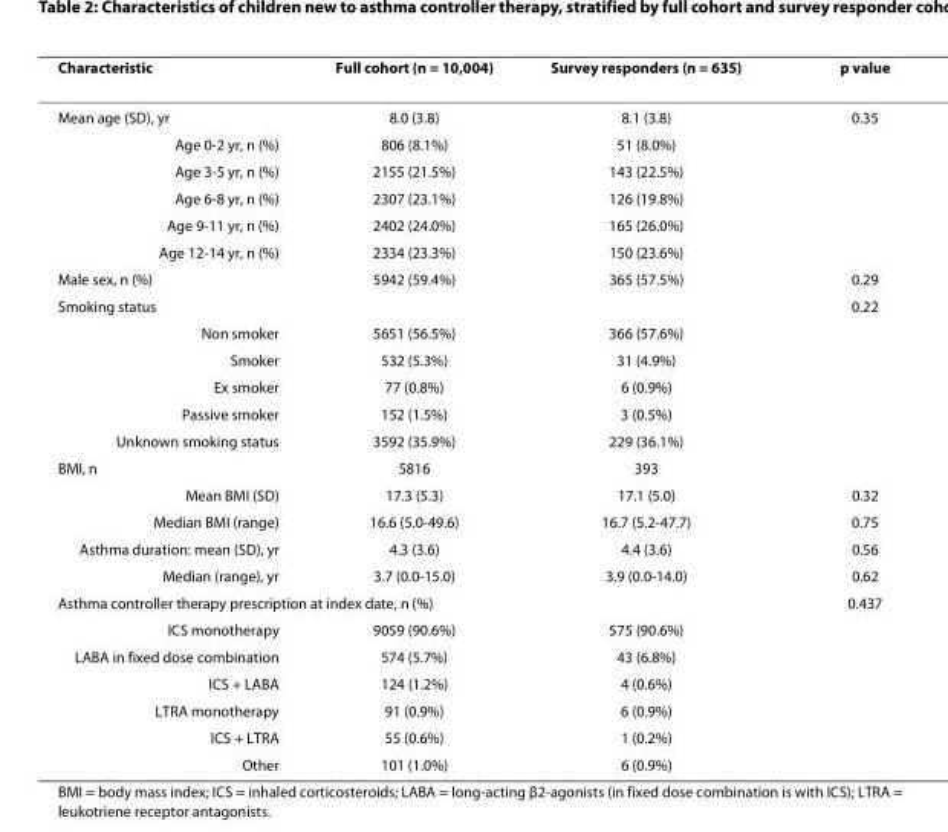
<table><thead><tr><td>Characteristic</td><td>Full cohort (n = 10,004)</td><td>Survey responders (n = 635)</td><td>p value</td></tr></thead><tbody><tr><td>Mean age (SD), yr</td><td>8.0 (3.8)</td><td>8.1 (3.8)</td><td>0.35</td></tr><tr><td>Age 0-2 yr, n (%)</td><td>806 (8.1%)</td><td>51 (8.0%)</td><td></td></tr><tr><td>Age 3-5 yr, n (%)</td><td>2155 (21.5%)</td><td>143 (22.5%)</td><td></td></tr><tr><td>Age 6-8 yr, n (%)</td><td>2307 (23.1%)</td><td>126 (19.8%)</td><td></td></tr><tr><td>Age 9-11 yr, n (%)</td><td>2402 (24.0%)</td><td>165 (26.0%)</td><td></td></tr><tr><td>Age 12-14 yr, n (%)</td><td>2334 (23.3%)</td><td>150 (23.6%)</td><td></td></tr><tr><td>Male sex, n (%)</td><td>5942 (59.4%)</td><td>365 (57.5%)</td><td>0.29</td></tr><tr><td>Smoking status</td><td></td><td></td><td>0.22</td></tr><tr><td>Non smoker</td><td>5651 (56.5%)</td><td>366 (57.6%)</td><td></td></tr><tr><td>Smoker</td><td>532 (5.3%)</td><td>31 (4.9%)</td><td></td></tr><tr><td>Ex smoker</td><td>77 (0.8%)</td><td>6 (0.9%)</td><td></td></tr><tr><td>Passive smoker</td><td>152 (1.5%)</td><td>3 (0.5%)</td><td></td></tr><tr><td>Unknown smoking status</td><td>3592 (35.9%)</td><td>229 (36.1%)</td><td></td></tr><tr><td>BMI, n</td><td>5816</td><td>393</td><td></td></tr><tr><td>Mean BMI (SD)</td><td>17.3 (5.3)</td><td>17.1 (5.0)</td><td>0.32</td></tr><tr><td>Median BMI (range)</td><td>16.6 (5.0-49.6)</td><td>16.7 (5.2-47.7)</td><td>0.75</td></tr><tr><td>Asthma duration: mean (SD), yr</td><td>4.3 (3.6)</td><td>4.4 (3.6)</td><td>0.56</td></tr><tr><td>Median (range), yr</td><td>3.7 (0.0-15.0)</td><td>3.9 (0.0-14.0)</td><td>0.62</td></tr><tr><td colspan="3">Asthma controller therapy prescription at index date, n (%)</td><td>0.437</td></tr><tr><td>ICS monotherapy</td><td>9059 (90.6%)</td><td>575 (90.6%)</td><td></td></tr><tr><td>LABA in fixed dose combination</td><td>574 (5.7%)</td><td>43 (6.8%)</td><td></td></tr><tr><td>ICS + LABA</td><td>124 (1.2%)</td><td>4 (0.6%)</td><td></td></tr><tr><td>LTRA monotherapy</td><td>91 (0.9%)</td><td>6 (0.9%)</td><td></td></tr><tr><td>ICS + LTRA</td><td>55 (0.6%)</td><td>1 (0.2%)</td><td></td></tr><tr><td>Other</td><td>101 (1.0%)</td><td>6 (0.9%)</td><td></td></tr></tbody></table>